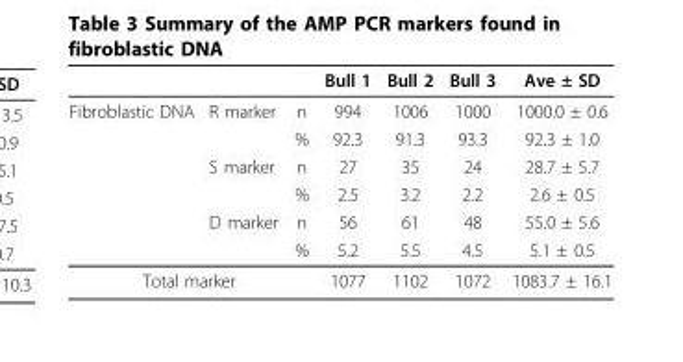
<table><thead><tr><td></td><td></td><td></td><td>Bull 1</td><td>Bull 2</td><td>Bull 3</td><td>Ave ± SD</td></tr></thead><tbody><tr><td rowspan="6">Fibroblastic DNA</td><td>R marker</td><td>n</td><td>994</td><td>1006</td><td>1000</td><td>1000.0 ± 0.6</td></tr><tr><td></td><td>%</td><td>92.3</td><td>91.3</td><td>93.3</td><td>92.3 ± 1.0</td></tr><tr><td>S marker</td><td>n</td><td>27</td><td>35</td><td>24</td><td>28.7 ± 5.7</td></tr><tr><td></td><td>%</td><td>2.5</td><td>3.2</td><td>2.2</td><td>2.6 ± 0.5</td></tr><tr><td>D marker</td><td>n</td><td>56</td><td>61</td><td>48</td><td>55.0 ± 5.6</td></tr><tr><td></td><td>%</td><td>5.2</td><td>5.5</td><td>4.5</td><td>5.1 ± 0.5</td></tr><tr><td colspan="3">Total marker</td><td>1077</td><td>1102</td><td>1072</td><td>1083.7 ± 16.1</td></tr></tbody></table>